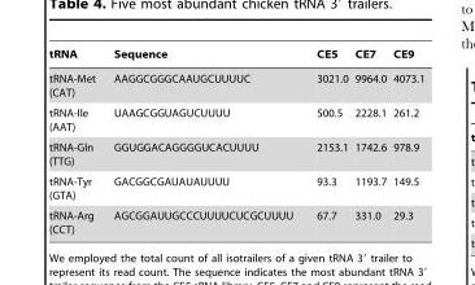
<table><thead><tr><td>tRNA</td><td>Sequence</td><td>CE5</td><td>CE7</td><td>CE9</td></tr></thead><tbody><tr><td>tRNA-Met (CAT)</td><td>AAGGCGGGCAAUGCUUUUC</td><td>3021.0</td><td>9964.0</td><td>4073.1</td></tr><tr><td>tRNA-Ile (AAT)</td><td>UAAGCGGUAGUCUUUU</td><td>500.5</td><td>2228.1</td><td>261.2</td></tr><tr><td>tRNA-Gln (TTG)</td><td>GGUGGACAGGGGUCACUUUU</td><td>2153.1</td><td>1742.6</td><td>978.9</td></tr><tr><td>tRNA-Tyr (GTA)</td><td>GACGGCGAUAUAUUUU</td><td>93.3</td><td>1193.7</td><td>149.5</td></tr><tr><td>tRNA-Arg (CCT)</td><td>AGCGGAUUGCCCUUUUCUCGCUUUU</td><td>67.7</td><td>331.0</td><td>29.3</td></tr></tbody></table>